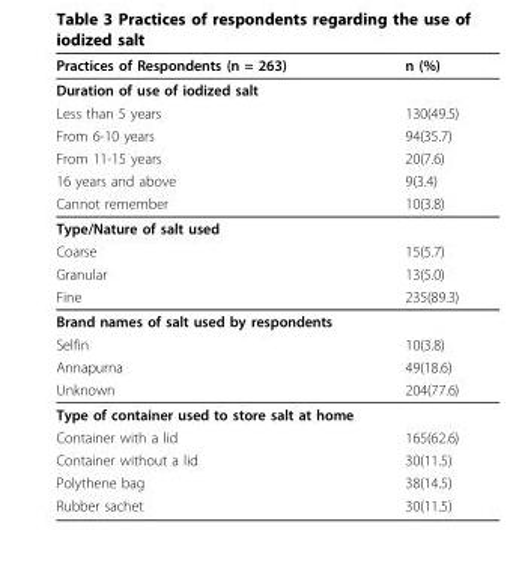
<table><thead><tr><td>Practices of Respondents (n = 263)</td><td>n (%)</td></tr></thead><tbody><tr><td colspan="2">Duration of use of iodized salt</td></tr><tr><td>Less than 5 years</td><td>130(49.5)</td></tr><tr><td>From 6-10 years</td><td>94(35.7)</td></tr><tr><td>From 11-15 years</td><td>20(7.6)</td></tr><tr><td>16 years and above</td><td>9(3.4)</td></tr><tr><td>Cannot remember</td><td>10(3.8)</td></tr><tr><td colspan="2">Type/Nature of salt used</td></tr><tr><td>Coarse</td><td>15(5.7)</td></tr><tr><td>Granular</td><td>13(5.0)</td></tr><tr><td>Fine</td><td>235(89.3)</td></tr><tr><td colspan="2">Brand names of salt used by respondents</td></tr><tr><td>Selfin</td><td>10(3.8)</td></tr><tr><td>Annapurna</td><td>49(18.6)</td></tr><tr><td>Unknown</td><td>204(77.6)</td></tr><tr><td colspan="2">Type of container used to store salt at home</td></tr><tr><td>Container with a lid</td><td>165(62.6)</td></tr><tr><td>Container without a lid</td><td>30(11.5)</td></tr><tr><td>Polythene bag</td><td>38(14.5)</td></tr><tr><td>Rubber sachet</td><td>30(11.5)</td></tr></tbody></table>